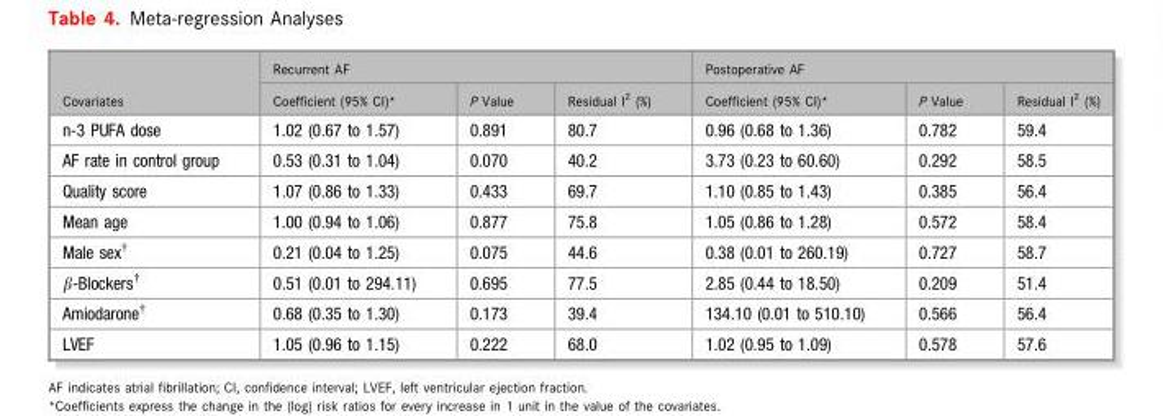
<table><thead><tr><td rowspan="2">Covariates</td><td colspan="3">Recurrent AF</td><td colspan="3">Postoperative AF</td></tr><tr><td>Coefficient (95% CI)*</td><td>P Value</td><td>Residual I<sup>2</sup> (%)</td><td>Coefficient (95% CI)*</td><td>P Value</td><td>Residual I<sup>2</sup> (%)</td></tr></thead><tbody><tr><td>n-3 PUFA dose</td><td>1.02 (0.67 to 1.57)</td><td>0.891</td><td>80.7</td><td>0.96 (0.68 to 1.36)</td><td>0.782</td><td>59.4</td></tr><tr><td>AF rate in control group</td><td>0.53 (0.31 to 1.04)</td><td>0.070</td><td>40.2</td><td>3.73 (0.23 to 60.60)</td><td>0.292</td><td>58.5</td></tr><tr><td>Quality score</td><td>1.07 (0.86 to 1.33)</td><td>0.433</td><td>69.7</td><td>1.10 (0.85 to 1.43)</td><td>0.385</td><td>56.4</td></tr><tr><td>Mean age</td><td>1.00 (0.94 to 1.06)</td><td>0.877</td><td>75.8</td><td>1.05 (0.86 to 1.28)</td><td>0.572</td><td>58.4</td></tr><tr><td>Male sex†</td><td>0.21 (0.04 to 1.25)</td><td>0.075</td><td>44.6</td><td>0.38 (0.01 to 260.19)</td><td>0.727</td><td>58.7</td></tr><tr><td>b-Blockers†</td><td>0.51 (0.01 to 294.11)</td><td>0.695</td><td>77.5</td><td>2.85 (0.44 to 18.50)</td><td>0.209</td><td>51.4</td></tr><tr><td>Amiodarone†</td><td>0.68 (0.35 to 1.30)</td><td>0.173</td><td>39.4</td><td>134.10 (0.01 to 510.10)</td><td>0.566</td><td>56.4</td></tr><tr><td>LVEF</td><td>1.05 (0.96 to 1.15)</td><td>0.222</td><td>68.0</td><td>1.02 (0.95 to 1.09)</td><td>0.578</td><td>57.6</td></tr></tbody></table>